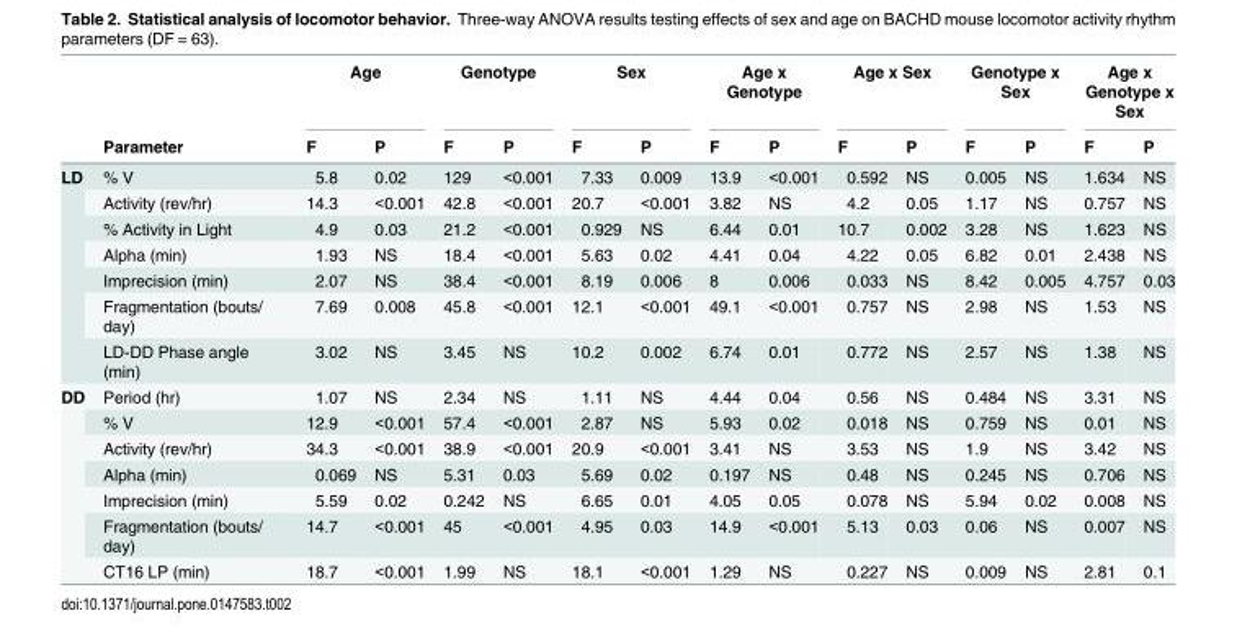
<table><thead><tr><td rowspan="2"></td><td rowspan="2">Parameter</td><td colspan="2">Age</td><td colspan="2">Genotype</td><td colspan="2">Sex</td><td colspan="2">Age x Genotype</td><td colspan="2">Age x Sex</td><td colspan="2">Genotype x Sex</td><td colspan="2">Age x Genotype x Sex</td></tr><tr><td>F</td><td>P</td><td>F</td><td>P</td><td>F</td><td>P</td><td>F</td><td>P</td><td>F</td><td>P</td><td>F</td><td>P</td><td>F</td><td>P</td></tr></thead><tbody><tr><td rowspan="7">LD</td><td>% V</td><td>5.8</td><td>0.02</td><td>129</td><td>&lt;0.001</td><td>7.33</td><td>0.009</td><td>13.9</td><td>&lt;0.001</td><td>0.592</td><td>NS</td><td>0.005</td><td>NS</td><td>1.634</td><td>NS</td></tr><tr><td>Activity (rev/hr)</td><td>14.3</td><td>&lt;0.001</td><td>42.8</td><td>&lt;0.001</td><td>20.7</td><td>&lt;0.001</td><td>3.82</td><td>NS</td><td>4.2</td><td>0.05</td><td>1.17</td><td>NS</td><td>0.757</td><td>NS</td></tr><tr><td>% Activity in Light</td><td>4.9</td><td>0.03</td><td>21.2</td><td>&lt;0.001</td><td>0.929</td><td>NS</td><td>6.44</td><td>0.01</td><td>10.7</td><td>0.002</td><td>3.28</td><td>NS</td><td>1.623</td><td>NS</td></tr><tr><td>Alpha (min)</td><td>1.93</td><td>NS</td><td>18.4</td><td>&lt;0.001</td><td>5.63</td><td>0.02</td><td>4.41</td><td>0.04</td><td>4.22</td><td>0.05</td><td>6.82</td><td>0.01</td><td>2.438</td><td>NS</td></tr><tr><td>Imprecision (min)</td><td>2.07</td><td>NS</td><td>38.4</td><td>&lt;0.001</td><td>8.19</td><td>0.006</td><td>8</td><td>0.006</td><td>0.033</td><td>NS</td><td>8.42</td><td>0.005</td><td>4.757</td><td>0.03</td></tr><tr><td>Fragmentation (bouts/ day)</td><td>7.69</td><td>0.008</td><td>45.8</td><td>&lt;0.001</td><td>12.1</td><td>&lt;0.001</td><td>49.1</td><td>&lt;0.001</td><td>0.757</td><td>NS</td><td>2.98</td><td>NS</td><td>1.53</td><td>NS</td></tr><tr><td>LD-DD Phase angle (min)</td><td>3.02</td><td>NS</td><td>3.45</td><td>NS</td><td>10.2</td><td>0.002</td><td>6.74</td><td>0.01</td><td>0.772</td><td>NS</td><td>2.57</td><td>NS</td><td>1.38</td><td>NS</td></tr><tr><td rowspan="7">DD</td><td>Period (hr)</td><td>1.07</td><td>NS</td><td>2.34</td><td>NS</td><td>1.11</td><td>NS</td><td>4.44</td><td>0.04</td><td>0.56</td><td>NS</td><td>0.484</td><td>NS</td><td>3.31</td><td>NS</td></tr><tr><td>% V</td><td>12.9</td><td>&lt;0.001</td><td>57.4</td><td>&lt;0.001</td><td>2.87</td><td>NS</td><td>5.93</td><td>0.02</td><td>0.018</td><td>NS</td><td>0.759</td><td>NS</td><td>0.01</td><td>NS</td></tr><tr><td>Activity (rev/hr)</td><td>34.3</td><td>&lt;0.001</td><td>38.9</td><td>&lt;0.001</td><td>20.9</td><td>&lt;0.001</td><td>3.41</td><td>NS</td><td>3.53</td><td>NS</td><td>1.9</td><td>NS</td><td>3.42</td><td>NS</td></tr><tr><td>Alpha (min)</td><td>0.069</td><td>NS</td><td>5.31</td><td>0.03</td><td>5.69</td><td>0.02</td><td>0.197</td><td>NS</td><td>0.48</td><td>NS</td><td>0.245</td><td>NS</td><td>0.706</td><td>NS</td></tr><tr><td>Imprecision (min)</td><td>5.59</td><td>0.02</td><td>0.242</td><td>NS</td><td>6.65</td><td>0.01</td><td>4.05</td><td>0.05</td><td>0.078</td><td>NS</td><td>5.94</td><td>0.02</td><td>0.008</td><td>NS</td></tr><tr><td>Fragmentation (bouts/ day)</td><td>14.7</td><td>&lt;0.001</td><td>45</td><td>&lt;0.001</td><td>4.95</td><td>0.03</td><td>14.9</td><td>&lt;0.001</td><td>5.13</td><td>0.03</td><td>0.06</td><td>NS</td><td>0.007</td><td>NS</td></tr><tr><td>CT16 LP (min)</td><td>18.7</td><td>&lt;0.001</td><td>1.99</td><td>NS</td><td>18.1</td><td>&lt;0.001</td><td>1.29</td><td>NS</td><td>0.227</td><td>NS</td><td>0.009</td><td>NS</td><td>2.81</td><td>0.1</td></tr></tbody></table>